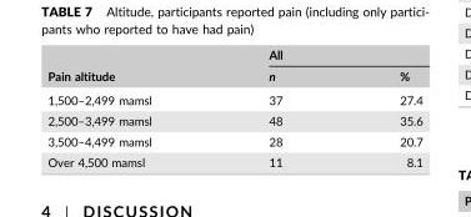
<table><thead><tr><td rowspan="2">Pain altitude</td><td colspan="2">All</td></tr><tr><td>n</td><td>%</td></tr></thead><tbody><tr><td>1,500–2,499 mamsl</td><td>37</td><td>27.4</td></tr><tr><td>2,500–3,499 mamsl</td><td>48</td><td>35.6</td></tr><tr><td>3,500–4,499 mamsl</td><td>28</td><td>20.7</td></tr><tr><td>Over 4,500 mamsl</td><td>11</td><td>8.1</td></tr></tbody></table>